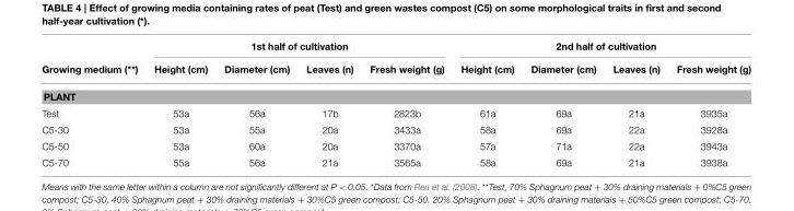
<table><thead><tr><td rowspan="2">Growing medium (**)</td><td colspan="4">1st half of cultivation</td><td colspan="4">2nd half of cultivation</td></tr><tr><td>Height (cm)</td><td>Diameter (cm)</td><td>Leaves (n)</td><td>Fresh weight (g)</td><td>Height (cm)</td><td>Diameter (cm)</td><td>Leaves (n)</td><td>Fresh weight (g)</td></tr></thead><tbody><tr><td colspan="9">PLANT</td></tr><tr><td>Test</td><td>53a</td><td>56a</td><td>17b</td><td>2823b</td><td>61a</td><td>69a</td><td>21a</td><td>3935a</td></tr><tr><td>C5-30</td><td>53a</td><td>55a</td><td>20a</td><td>3433a</td><td>58a</td><td>69a</td><td>22a</td><td>3928a</td></tr><tr><td>C5-50</td><td>53a</td><td>60a</td><td>20a</td><td>3370a</td><td>57a</td><td>71a</td><td>22a</td><td>3943a</td></tr><tr><td>C5-70</td><td>55a</td><td>56a</td><td>21a</td><td>3565a</td><td>58a</td><td>69a</td><td>21a</td><td>3938a</td></tr></tbody></table>